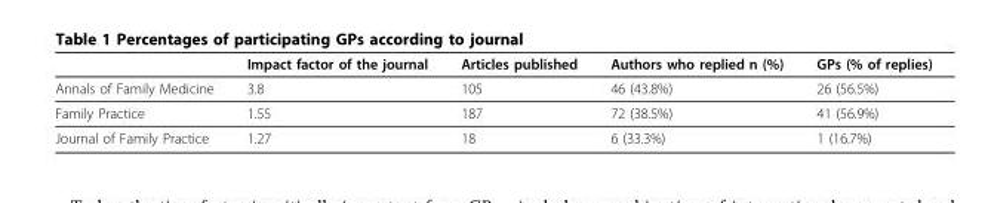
<table><thead><tr><td></td><td>Impact factor of the journal</td><td>Articles published</td><td>Authors who replied n (%)</td><td>GPs (% of replies)</td></tr></thead><tbody><tr><td>Annals of Family Medicine</td><td>3.8</td><td>105</td><td>46 (43.8%)</td><td>26 (56.5%)</td></tr><tr><td>Family Practice</td><td>1.55</td><td>187</td><td>72 (38.5%)</td><td>41 (56.9%)</td></tr><tr><td>Journal of Family Practice</td><td>1.27</td><td>18</td><td>6 (33.3%)</td><td>1 (16.7%)</td></tr></tbody></table>